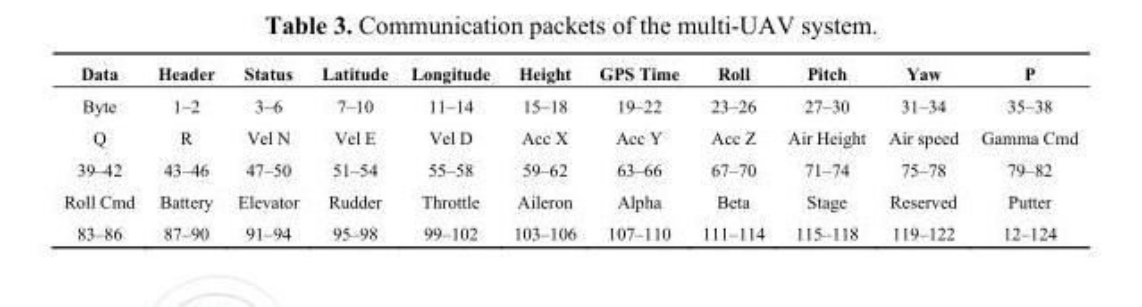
<table><thead><tr><td>Data</td><td>Header</td><td>Status</td><td>Latitude</td><td>Longitude</td><td>Height</td><td>GPS Time</td><td>Roll</td><td>Pitch</td><td>Yaw</td><td>P</td></tr></thead><tbody><tr><td>Byte</td><td>1–2</td><td>3–6</td><td>7–10</td><td>11–14</td><td>15–18</td><td>19–22</td><td>23–26</td><td>27–30</td><td>31–34</td><td>35–38</td></tr><tr><td>Q</td><td>R</td><td>Vel N</td><td>Vel E</td><td>Vel D</td><td>Acc X</td><td>Acc Y</td><td>Acc Z</td><td>Air Height</td><td>Air speed</td><td>Gamma Cmd</td></tr><tr><td>39–42</td><td>43–46</td><td>47–50</td><td>51–54</td><td>55–58</td><td>59–62</td><td>63–66</td><td>67–70</td><td>71–74</td><td>75–78</td><td>79–82</td></tr><tr><td>Roll Cmd</td><td>Battery</td><td>Elevator</td><td>Rudder</td><td>Throttle</td><td>Aileron</td><td>Alpha</td><td>Beta</td><td>Stage</td><td>Reserved</td><td>Putter</td></tr><tr><td>83–86</td><td>87–90</td><td>91–94</td><td>95–98</td><td>99–102</td><td>103–106</td><td>107–110</td><td>111–114</td><td>115–118</td><td>119–122</td><td>12–124</td></tr></tbody></table>